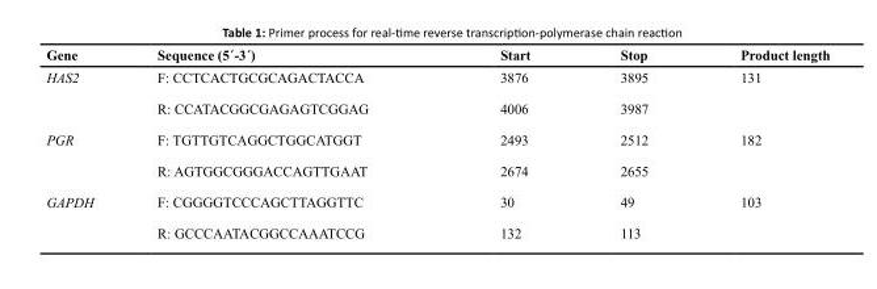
<table><thead><tr><td>Gene</td><td>Sequence (5ˊ-3ˊ)</td><td>Start</td><td>Stop</td><td>Product length</td></tr></thead><tbody><tr><td rowspan="2">HAS2</td><td>F: CCTCACTGCGCAGACTACCA</td><td>3876</td><td>3895</td><td>131</td></tr><tr><td>R: CCATACGGCGAGAGTCGGAG</td><td>4006</td><td>3987</td><td></td></tr><tr><td rowspan="2">PGR</td><td>F: TGTTGTCAGGCTGGCATGGT</td><td>2493</td><td>2512</td><td>182</td></tr><tr><td>R: AGTGGCGGGACCAGTTGAAT</td><td>2674</td><td>2655</td><td></td></tr><tr><td rowspan="2">GAPDH</td><td>F: CGGGGTCCCAGCTTAGGTTC</td><td>30</td><td>49</td><td>103</td></tr><tr><td>R: GCCCAATACGGCCAAATCCG</td><td>132</td><td>113</td><td></td></tr></tbody></table>